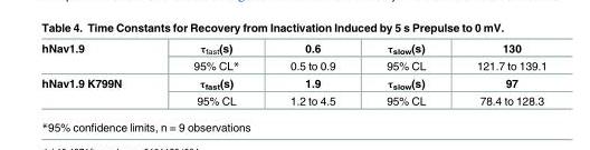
<table><tbody><tr><td rowspan="2">hNav1.9</td><td>τ<sub>fast</sub>(s)</td><td>0.6</td><td>τ<sub>slow</sub>(s)</td><td>130</td></tr><tr><td>95% CL*</td><td>0.5 to 0.9</td><td>95% CL</td><td>121.7 to 139.1</td></tr><tr><td rowspan="2">hNav1.9 K799N</td><td>τ<sub>fast</sub>(s)</td><td>1.9</td><td>τ<sub>slow</sub>(s)</td><td>97</td></tr><tr><td>95% CL</td><td>1.2 to 4.5</td><td>95% CL</td><td>78.4 to 128.3</td></tr></tbody></table>